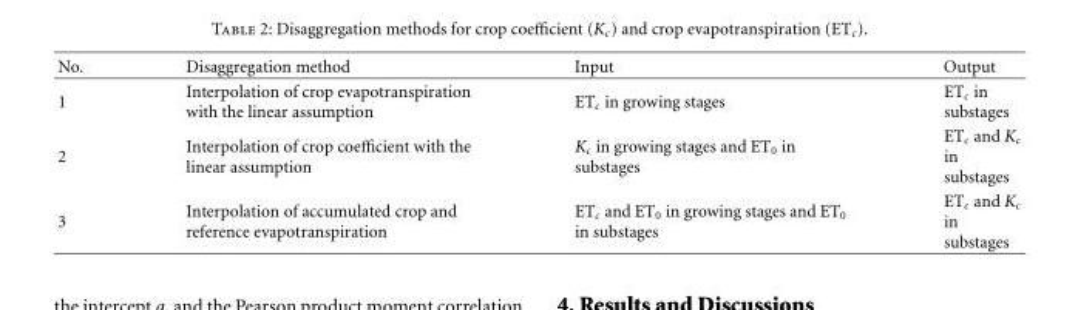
<table><thead><tr><td>No.</td><td>Disaggregation method</td><td>Input</td><td>Output</td></tr></thead><tbody><tr><td>1</td><td>Interpolation of crop evapotranspiration with the linear assumption</td><td>ET<sub>c</sub> in growing stages</td><td>ET<sub>c</sub> in substages</td></tr><tr><td>2</td><td>Interpolation of crop coefficient with the linear assumption</td><td>K<sub>c</sub> in growing stages and ET<sub>0</sub> in substages</td><td>ET<sub>c</sub> and K<sub>c</sub> in substages</td></tr><tr><td>3</td><td>Interpolation of accumulated crop and reference evapotranspiration</td><td>ET<sub>c</sub> and ET<sub>0</sub> in growing stages and ET<sub>0</sub> in substages</td><td>ET<sub>c</sub> and K<sub>c</sub> in substages</td></tr></tbody></table>